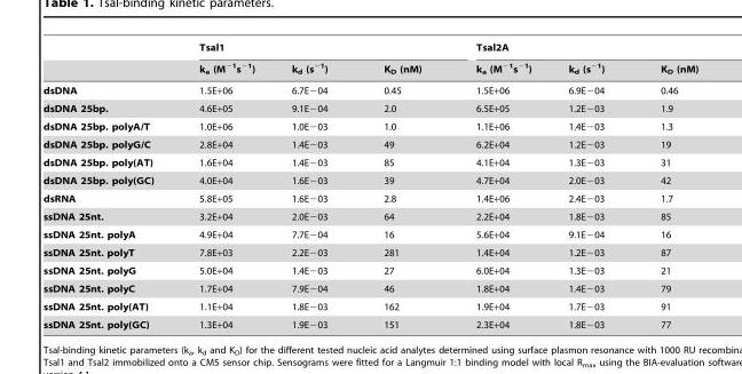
<table><thead><tr><td rowspan="2"></td><td colspan="3">Tsal1</td><td colspan="3">Tsal2A</td></tr><tr><td>k<sub>a</sub> (M<sup>−1</sup>s<sup>−1</sup>)</td><td>k<sub>d</sub> (s<sup>−1</sup>)</td><td>K<sub>D</sub> (nM)</td><td>k<sub>a</sub> (M<sup>−1</sup>s<sup>−1</sup>)</td><td>k<sub>d</sub> (s<sup>−1</sup>)</td><td>K<sub>D</sub> (nM)</td></tr></thead><tbody><tr><td>dsDNA</td><td>1.5E+06</td><td>6.7E−04</td><td>0.45</td><td>1.5E+06</td><td>6.9E−04</td><td>0.46</td></tr><tr><td>dsDNA 25bp.</td><td>4.6E+05</td><td>9.1E−04</td><td>2.0</td><td>6.5E+05</td><td>1.2E−03</td><td>1.9</td></tr><tr><td>dsDNA 25bp. polyA/T</td><td>1.0E+06</td><td>1.0E−03</td><td>1.0</td><td>1.1E+06</td><td>1.4E−03</td><td>1.3</td></tr><tr><td>dsDNA 25bp. polyG/C</td><td>2.8E+04</td><td>1.4E−03</td><td>49</td><td>6.2E+04</td><td>1.2E−03</td><td>19</td></tr><tr><td>dsDNA 25bp. poly(AT)</td><td>1.6E+04</td><td>1.4E−03</td><td>85</td><td>4.1E+04</td><td>1.3E−03</td><td>31</td></tr><tr><td>dsDNA 25bp. poly(GC)</td><td>4.0E+04</td><td>1.6E−03</td><td>39</td><td>4.7E+04</td><td>2.0E−03</td><td>42</td></tr><tr><td>dsRNA</td><td>5.8E+05</td><td>1.6E−03</td><td>2.8</td><td>1.4E+06</td><td>2.4E−03</td><td>1.7</td></tr><tr><td>ssDNA 25nt.</td><td>3.2E+04</td><td>2.0E−03</td><td>64</td><td>2.2E+04</td><td>1.8E−03</td><td>85</td></tr><tr><td>ssDNA 25nt. polyA</td><td>4.9E+04</td><td>7.7E−04</td><td>16</td><td>5.6E+04</td><td>9.1E−04</td><td>16</td></tr><tr><td>ssDNA 25nt. polyT</td><td>7.8E+03</td><td>2.2E−03</td><td>281</td><td>1.4E+04</td><td>1.2E−03</td><td>87</td></tr><tr><td>ssDNA 25nt. polyG</td><td>5.0E+04</td><td>1.4E−03</td><td>27</td><td>6.0E+04</td><td>1.3E−03</td><td>21</td></tr><tr><td>ssDNA 25nt. polyC</td><td>1.7E+04</td><td>7.9E−04</td><td>46</td><td>1.8E+04</td><td>1.4E−03</td><td>79</td></tr><tr><td>ssDNA 25nt. poly(AT)</td><td>1.1E+04</td><td>1.8E−03</td><td>162</td><td>1.9E+04</td><td>1.7E−03</td><td>91</td></tr><tr><td>ssDNA 25nt. poly(GC)</td><td>1.3E+04</td><td>1.9E−03</td><td>151</td><td>2.3E+04</td><td>1.8E−03</td><td>77</td></tr></tbody></table>